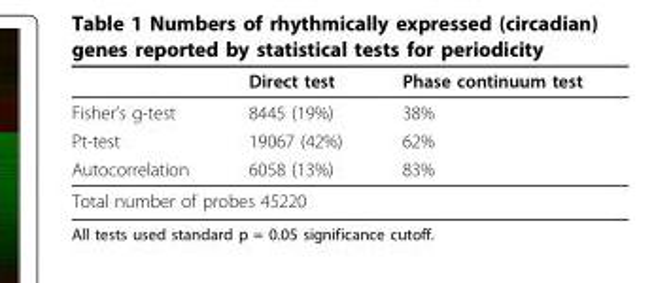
<table><thead><tr><td></td><td>Direct test</td><td>Phase continuum test</td></tr></thead><tbody><tr><td>Fisher’s g-test</td><td>8445 (19%)</td><td>38%</td></tr><tr><td>Pt-test</td><td>19067 (42%)</td><td>62%</td></tr><tr><td>Autocorrelation</td><td>6058 (13%)</td><td>83%</td></tr><tr><td colspan="3">Total number of probes 45220</td></tr></tbody></table>